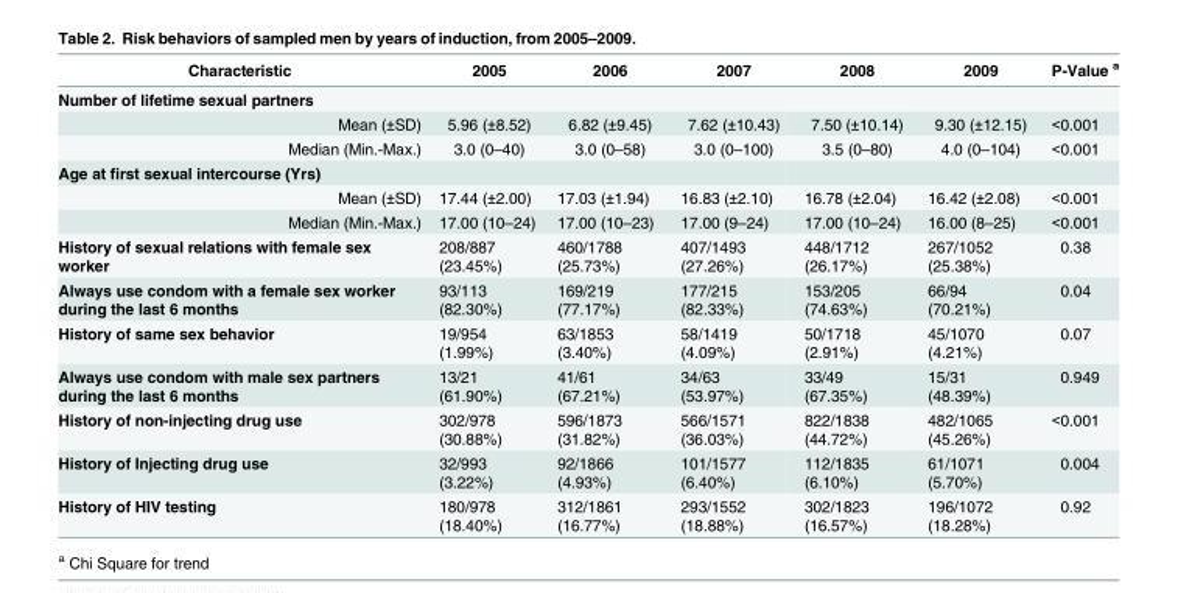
<table><thead><tr><td>Characteristic</td><td>2005</td><td>2006</td><td>2007</td><td>2008</td><td>2009</td><td>P-Value <sup>a</sup></td></tr></thead><tbody><tr><td colspan="7">Number of lifetime sexual partners</td></tr><tr><td>Mean (±SD)</td><td>5.96 (±8.52)</td><td>6.82 (±9.45)</td><td>7.62 (±10.43)</td><td>7.50 (±10.14)</td><td>9.30 (±12.15)</td><td>&lt;0.001</td></tr><tr><td>Median (Min.-Max.)</td><td>3.0 (0–40)</td><td>3.0 (0–58)</td><td>3.0 (0–100)</td><td>3.5 (0–80)</td><td>4.0 (0–104)</td><td>&lt;0.001</td></tr><tr><td colspan="7">Age at first sexual intercourse (Yrs)</td></tr><tr><td>Mean (±SD)</td><td>17.44 (±2.00)</td><td>17.03 (±1.94)</td><td>16.83 (±2.10)</td><td>16.78 (±2.04)</td><td>16.42 (±2.08)</td><td>&lt;0.001</td></tr><tr><td>Median (Min.-Max.)</td><td>17.00 (10–24)</td><td>17.00 (10–23)</td><td>17.00 (9–24)</td><td>17.00 (10–24)</td><td>16.00 (8–25)</td><td>&lt;0.001</td></tr><tr><td>History of sexual relations with female sex worker</td><td>208/887 (23.45%)</td><td>460/1788 (25.73%)</td><td>407/1493 (27.26%)</td><td>448/1712 (26.17%)</td><td>267/1052 (25.38%)</td><td>0.38</td></tr><tr><td>Always use condom with a female sex worker during the last 6 months</td><td>93/113 (82.30%)</td><td>169/219 (77.17%)</td><td>177/215 (82.33%)</td><td>153/205 (74.63%)</td><td>66/94 (70.21%)</td><td>0.04</td></tr><tr><td>History of same sex behavior</td><td>19/954 (1.99%)</td><td>63/1853 (3.40%)</td><td>58/1419 (4.09%)</td><td>50/1718 (2.91%)</td><td>45/1070 (4.21%)</td><td>0.07</td></tr><tr><td>Always use condom with male sex partners during the last 6 months</td><td>13/21 (61.90%)</td><td>41/61 (67.21%)</td><td>34/63 (53.97%)</td><td>33/49 (67.35%)</td><td>15/31 (48.39%)</td><td>0.949</td></tr><tr><td>History of non-injecting drug use</td><td>302/978 (30.88%)</td><td>596/1873 (31.82%)</td><td>566/1571 (36.03%)</td><td>822/1838 (44.72%)</td><td>482/1065 (45.26%)</td><td>&lt;0.001</td></tr><tr><td>History of Injecting drug use</td><td>32/993 (3.22%)</td><td>92/1866 (4.93%)</td><td>101/1577 (6.40%)</td><td>112/1835 (6.10%)</td><td>61/1071 (5.70%)</td><td>0.004</td></tr><tr><td>History of HIV testing</td><td>180/978 (18.40%)</td><td>312/1861 (16.77%)</td><td>293/1552 (18.88%)</td><td>302/1823 (16.57%)</td><td>196/1072 (18.28%)</td><td>0.92</td></tr></tbody></table>